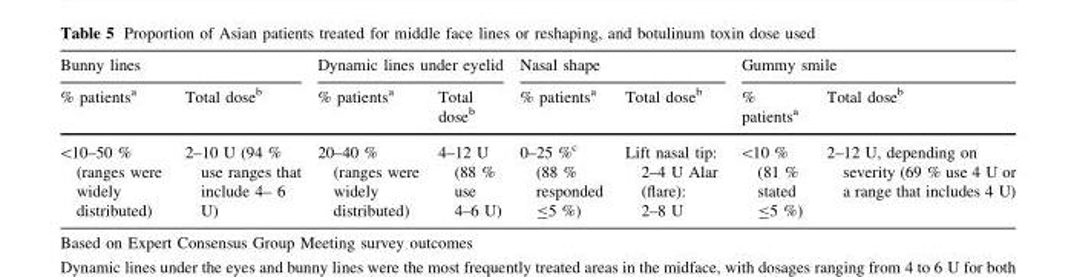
<table><thead><tr><td colspan="2">Bunny lines</td><td colspan="2">Dynamic lines under eyelid</td><td colspan="2">Nasal shape</td><td colspan="2">Gummy smile</td></tr><tr><td>% patients<sup>a</sup></td><td>Total dose<sup>b</sup></td><td>% patients<sup>a</sup></td><td>Total dose<sup>b</sup></td><td>% patients<sup>a</sup></td><td>Total dose<sup>b</sup></td><td>% patients<sup>a</sup></td><td>Total dose<sup>b</sup></td></tr></thead><tbody><tr><td>&lt;10–50 % (ranges were widely distributed)</td><td>2–10 U (94 % use ranges that include 4– 6 U)</td><td>20–40 % (ranges were widely distributed)</td><td>4–12 U (88 % use 4–6 U)</td><td>0–25 %<sup>c</sup> (88 % responded ≤5 %)</td><td>Lift nasal tip: 2–4 U Alar (flare): 2–8 U</td><td>&lt;10 % (81 % stated ≤5 %)</td><td>2–12 U, depending on severity (69 % use 4 U or a range that includes 4 U)</td></tr></tbody></table>